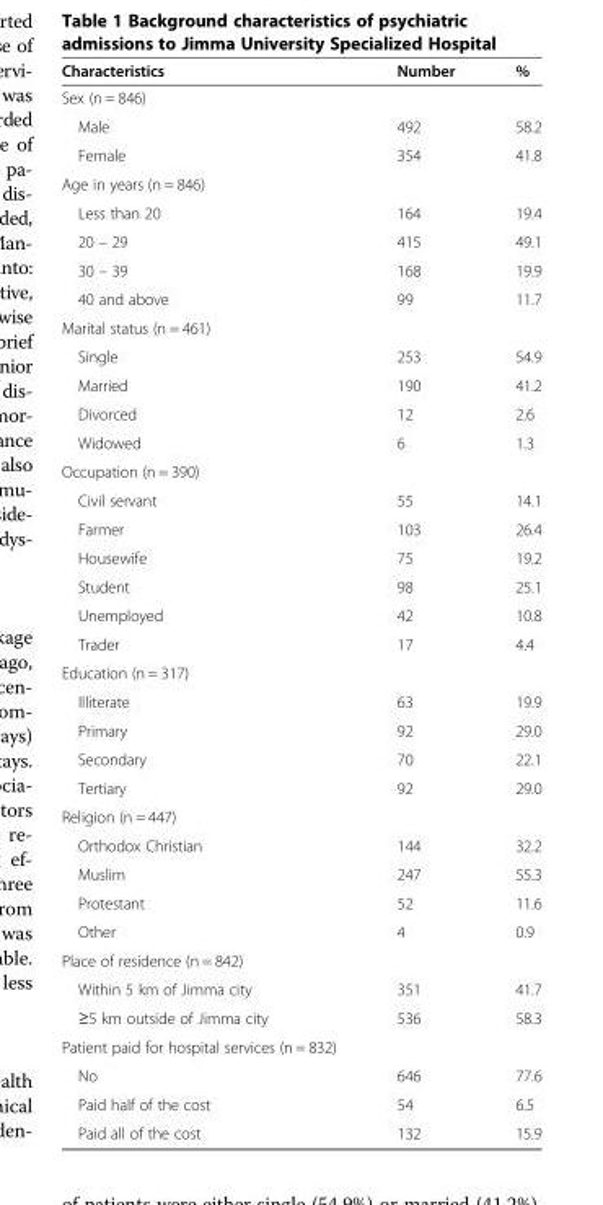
<table><thead><tr><td>Characteristics</td><td>Number</td><td>%</td></tr></thead><tbody><tr><td colspan="3">Sex (n = 846)</td></tr><tr><td>Male</td><td>492</td><td>58.2</td></tr><tr><td>Female</td><td>354</td><td>41.8</td></tr><tr><td colspan="3">Age in years (n = 846)</td></tr><tr><td>Less than 20</td><td>164</td><td>19.4</td></tr><tr><td>20 – 29</td><td>415</td><td>49.1</td></tr><tr><td>30 – 39</td><td>168</td><td>19.9</td></tr><tr><td>40 and above</td><td>99</td><td>11.7</td></tr><tr><td colspan="3">Marital status (n = 461)</td></tr><tr><td>Single</td><td>253</td><td>54.9</td></tr><tr><td>Married</td><td>190</td><td>41.2</td></tr><tr><td>Divorced</td><td>12</td><td>2.6</td></tr><tr><td>Widowed</td><td>6</td><td>1.3</td></tr><tr><td colspan="3">Occupation (n = 390)</td></tr><tr><td>Civil servant</td><td>55</td><td>14.1</td></tr><tr><td>Farmer</td><td>103</td><td>26.4</td></tr><tr><td>Housewife</td><td>75</td><td>19.2</td></tr><tr><td>Student</td><td>98</td><td>25.1</td></tr><tr><td>Unemployed</td><td>42</td><td>10.8</td></tr><tr><td>Trader</td><td>17</td><td>4.4</td></tr><tr><td colspan="3">Education (n = 317)</td></tr><tr><td>Illiterate</td><td>63</td><td>19.9</td></tr><tr><td>Primary</td><td>92</td><td>29.0</td></tr><tr><td>Secondary</td><td>70</td><td>22.1</td></tr><tr><td>Tertiary</td><td>92</td><td>29.0</td></tr><tr><td colspan="3">Religion (n = 447)</td></tr><tr><td>Orthodox Christian</td><td>144</td><td>32.2</td></tr><tr><td>Muslim</td><td>247</td><td>55.3</td></tr><tr><td>Protestant</td><td>52</td><td>11.6</td></tr><tr><td>Other</td><td>4</td><td>0.9</td></tr><tr><td colspan="3">Place of residence (n = 842)</td></tr><tr><td>Within 5 km of Jimma city</td><td>351</td><td>41.7</td></tr><tr><td>≥5 km outside of Jimma city</td><td>536</td><td>58.3</td></tr><tr><td colspan="3">Patient paid for hospital services (n = 832)</td></tr><tr><td>No</td><td>646</td><td>77.6</td></tr><tr><td>Paid half of the cost</td><td>54</td><td>6.5</td></tr><tr><td>Paid all of the cost</td><td>132</td><td>15.9</td></tr></tbody></table>